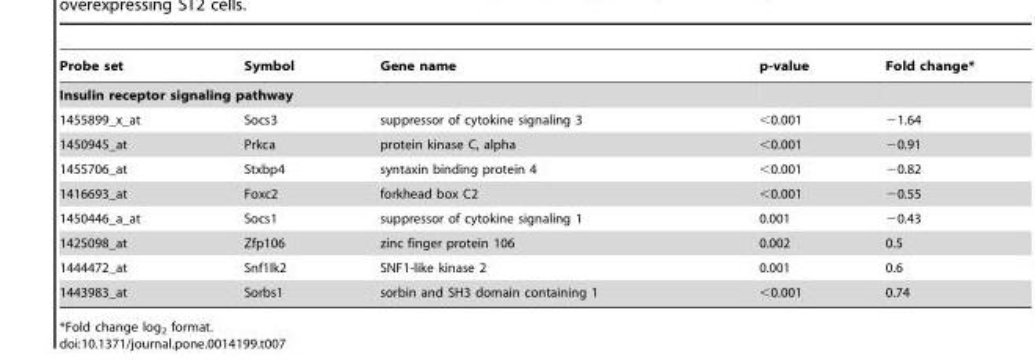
<table><thead><tr><td>Probe set</td><td>Symbol</td><td>Gene name</td><td>p-value</td><td>Fold change*</td></tr></thead><tbody><tr><td colspan="5">Insulin receptor signaling pathway</td></tr><tr><td>1455899_x_at</td><td>Socs3</td><td>suppressor of cytokine signaling 3</td><td>&lt;0.001</td><td>−1.64</td></tr><tr><td>1450945_at</td><td>Prkca</td><td>protein kinase C, alpha</td><td>&lt;0.001</td><td>−0.91</td></tr><tr><td>1455706_at</td><td>Stxbp4</td><td>syntaxin binding protein 4</td><td>&lt;0.001</td><td>−0.82</td></tr><tr><td>1416693_at</td><td>Foxc2</td><td>forkhead box C2</td><td>&lt;0.001</td><td>−0.55</td></tr><tr><td>1450446_a_at</td><td>Socs1</td><td>suppressor of cytokine signaling 1</td><td>0.001</td><td>−0.43</td></tr><tr><td>1425098_at</td><td>Zfp106</td><td>zinc finger protein 106</td><td>0.002</td><td>0.5</td></tr><tr><td>1444472_at</td><td>Snf1lk2</td><td>SNF1-like kinase 2</td><td>0.001</td><td>0.6</td></tr><tr><td>1443983_at</td><td>Sorbs1</td><td>sorbin and SH3 domain containing 1</td><td>&lt;0.001</td><td>0.74</td></tr></tbody></table>